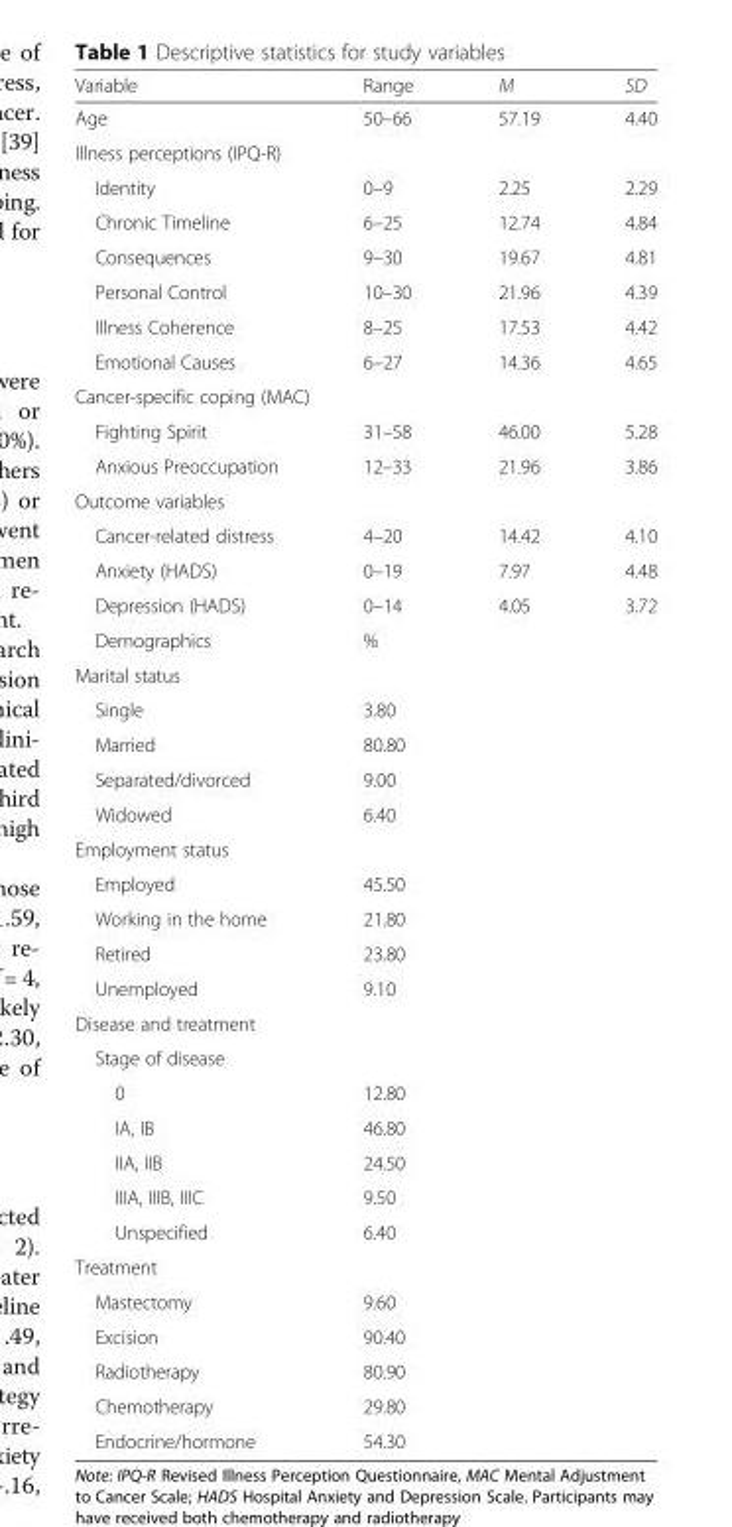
<table><thead><tr><td>Variable</td><td>Range</td><td>M</td><td>SD</td></tr></thead><tbody><tr><td>Age</td><td>50–66</td><td>57.19</td><td>4.40</td></tr><tr><td colspan="4">Illness perceptions (IPQ-R)</td></tr><tr><td>Identity</td><td>0–9</td><td>2.25</td><td>2.29</td></tr><tr><td>Chronic Timeline</td><td>6–25</td><td>12.74</td><td>4.84</td></tr><tr><td>Consequences</td><td>9–30</td><td>19.67</td><td>4.81</td></tr><tr><td>Personal Control</td><td>10–30</td><td>21.96</td><td>4.39</td></tr><tr><td>Illness Coherence</td><td>8–25</td><td>17.53</td><td>4.42</td></tr><tr><td>Emotional Causes</td><td>6–27</td><td>14.36</td><td>4.65</td></tr><tr><td colspan="4">Cancer-specific coping (MAC)</td></tr><tr><td>Fighting Spirit</td><td>31–58</td><td>46.00</td><td>5.28</td></tr><tr><td>Anxious Preoccupation</td><td>12–33</td><td>21.96</td><td>3.86</td></tr><tr><td colspan="4">Outcome variables</td></tr><tr><td>Cancer-related distress</td><td>4–20</td><td>14.42</td><td>4.10</td></tr><tr><td>Anxiety (HADS)</td><td>0–19</td><td>7.97</td><td>4.48</td></tr><tr><td>Depression (HADS)</td><td>0–14</td><td>4.05</td><td>3.72</td></tr><tr><td>Demographics</td><td>%</td><td></td><td></td></tr><tr><td colspan="4">Marital status</td></tr><tr><td>Single</td><td>3.80</td><td></td><td></td></tr><tr><td>Married</td><td>80.80</td><td></td><td></td></tr><tr><td>Separated/divorced</td><td>9.00</td><td></td><td></td></tr><tr><td>Widowed</td><td>6.40</td><td></td><td></td></tr><tr><td colspan="4">Employment status</td></tr><tr><td>Employed</td><td>45.50</td><td></td><td></td></tr><tr><td>Working in the home</td><td>21.80</td><td></td><td></td></tr><tr><td>Retired</td><td>23.80</td><td></td><td></td></tr><tr><td>Unemployed</td><td>9.10</td><td></td><td></td></tr><tr><td colspan="4">Disease and treatment</td></tr><tr><td colspan="4">Stage of disease</td></tr><tr><td>0</td><td>12.80</td><td></td><td></td></tr><tr><td>IA, IB</td><td>46.80</td><td></td><td></td></tr><tr><td>IIA, IIB</td><td>24.50</td><td></td><td></td></tr><tr><td>IIIA, IIIB, IIIC</td><td>9.50</td><td></td><td></td></tr><tr><td>Unspecified</td><td>6.40</td><td></td><td></td></tr><tr><td colspan="4">Treatment</td></tr><tr><td>Mastectomy</td><td>9.60</td><td></td><td></td></tr><tr><td>Excision</td><td>90.40</td><td></td><td></td></tr><tr><td>Radiotherapy</td><td>80.90</td><td></td><td></td></tr><tr><td>Chemotherapy</td><td>29.80</td><td></td><td></td></tr><tr><td>Endocrine/hormone</td><td>54.30</td><td></td><td></td></tr></tbody></table>